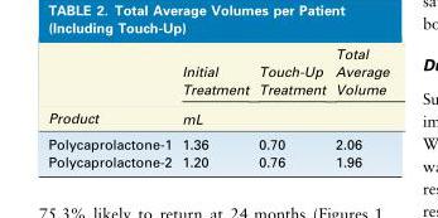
<table><thead><tr><td rowspan="2">Product</td><td>Initial Treatment</td><td>Touch-Up Treatment</td><td>Total Average Volume</td></tr><tr><td colspan="3">mL</td></tr></thead><tbody><tr><td>Polycaprolactone-1</td><td>1.36</td><td>0.70</td><td>2.06</td></tr><tr><td>Polycaprolactone-2</td><td>1.20</td><td>0.76</td><td>1.96</td></tr></tbody></table>